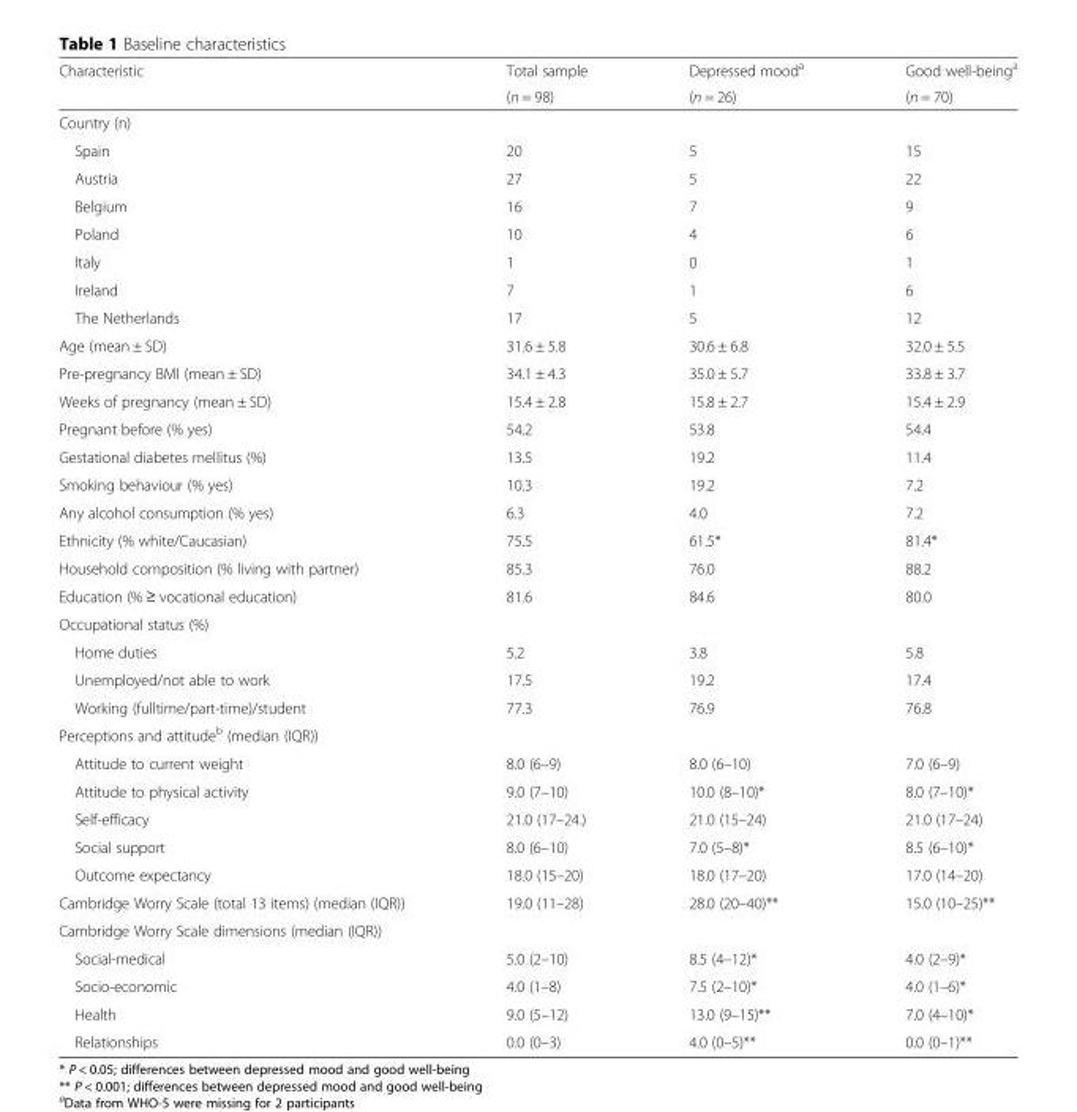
<table><thead><tr><td rowspan="2">Characteristic</td><td rowspan="2">Total sample (n = 98)</td><td rowspan="2">Depressed mood<sup>a</sup> (n = 26)</td><td rowspan="2">Good well-being<sup>a</sup> (n = 70)</td></tr><tr></tr></thead><tbody><tr><td colspan="4">Country (n)</td></tr><tr><td>Spain</td><td>20</td><td>5</td><td>15</td></tr><tr><td>Austria</td><td>27</td><td>5</td><td>22</td></tr><tr><td>Belgium</td><td>16</td><td>7</td><td>9</td></tr><tr><td>Poland</td><td>10</td><td>4</td><td>6</td></tr><tr><td>Italy</td><td>1</td><td>0</td><td>1</td></tr><tr><td>Ireland</td><td>7</td><td>1</td><td>6</td></tr><tr><td>The Netherlands</td><td>17</td><td>5</td><td>12</td></tr><tr><td>Age (mean ± SD)</td><td>31.6 ± 5.8</td><td>30.6 ± 6.8</td><td>32.0 ± 5.5</td></tr><tr><td>Pre-pregnancy BMI (mean ± SD)</td><td>34.1 ± 4.3</td><td>35.0 ± 5.7</td><td>33.8 ± 3.7</td></tr><tr><td>Weeks of pregnancy (mean ± SD)</td><td>15.4 ± 2.8</td><td>15.8 ± 2.7</td><td>15.4 ± 2.9</td></tr><tr><td>Pregnant before (% yes)</td><td>54.2</td><td>53.8</td><td>54.4</td></tr><tr><td>Gestational diabetes mellitus (%)</td><td>13.5</td><td>19.2</td><td>11.4</td></tr><tr><td>Smoking behaviour (% yes)</td><td>10.3</td><td>19.2</td><td>7.2</td></tr><tr><td>Any alcohol consumption (% yes)</td><td>6.3</td><td>4.0</td><td>7.2</td></tr><tr><td>Ethnicity (% white/Caucasian)</td><td>75.5</td><td>61.5*</td><td>81.4*</td></tr><tr><td>Household composition (% living with partner)</td><td>85.3</td><td>76.0</td><td>88.2</td></tr><tr><td>Education (% ≥ vocational education)</td><td>81.6</td><td>84.6</td><td>80.0</td></tr><tr><td colspan="4">Occupational status (%)</td></tr><tr><td>Home duties</td><td>5.2</td><td>3.8</td><td>5.8</td></tr><tr><td>Unemployed/not able to work</td><td>17.5</td><td>19.2</td><td>17.4</td></tr><tr><td>Working (fulltime/part-time)/student</td><td>77.3</td><td>76.9</td><td>76.8</td></tr><tr><td colspan="4">Perceptions and attitude<sup>b</sup> (median (IQR))</td></tr><tr><td>Attitude to current weight</td><td>8.0 (6–9)</td><td>8.0 (6–10)</td><td>7.0 (6–9)</td></tr><tr><td>Attitude to physical activity</td><td>9.0 (7–10)</td><td>10.0 (8–10)*</td><td>8.0 (7–10)*</td></tr><tr><td>Self-efficacy</td><td>21.0 (17–24.)</td><td>21.0 (15–24)</td><td>21.0 (17–24)</td></tr><tr><td>Social support</td><td>8.0 (6–10)</td><td>7.0 (5–8)*</td><td>8.5 (6–10)*</td></tr><tr><td>Outcome expectancy</td><td>18.0 (15–20)</td><td>18.0 (17–20)</td><td>17.0 (14–20)</td></tr><tr><td>Cambridge Worry Scale (total 13 items) (median (IQR))</td><td>19.0 (11–28)</td><td>28.0 (20–40)**</td><td>15.0 (10–25)**</td></tr><tr><td colspan="4">Cambridge Worry Scale dimensions (median (IQR))</td></tr><tr><td>Social-medical</td><td>5.0 (2–10)</td><td>8.5 (4–12)*</td><td>4.0 (2–9)*</td></tr><tr><td>Socio-economic</td><td>4.0 (1–8)</td><td>7.5 (2–10)*</td><td>4.0 (1–6)*</td></tr><tr><td>Health</td><td>9.0 (5–12)</td><td>13.0 (9–15)**</td><td>7.0 (4–10)*</td></tr><tr><td>Relationships</td><td>0.0 (0–3)</td><td>4.0 (0–5)**</td><td>0.0 (0–1)**</td></tr></tbody></table>